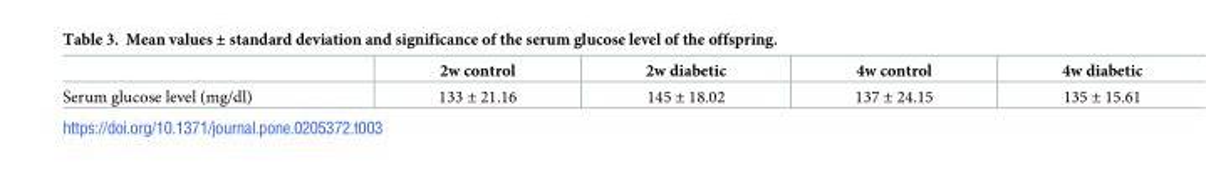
<table><thead><tr><td></td><td>2w control</td><td>2w diabetic</td><td>4w control</td><td>4w diabetic</td></tr></thead><tbody><tr><td>Serum glucose level (mg/dl)</td><td>133 ± 21.16</td><td>145 ± 18.02</td><td>137 ± 24.15</td><td>135 ± 15.61</td></tr></tbody></table>